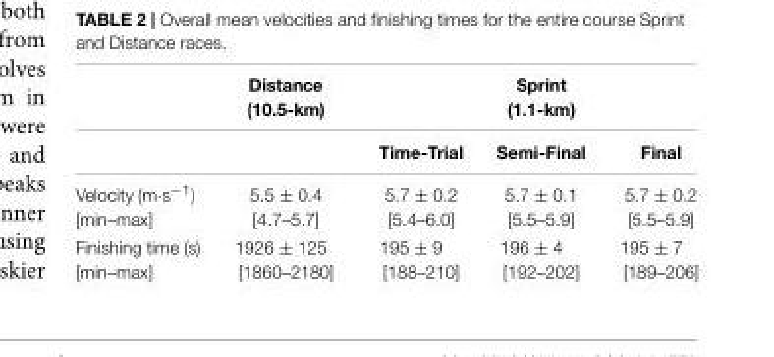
<table><thead><tr><td rowspan="2"></td><td rowspan="2">Distance (10.5-km)</td><td rowspan="2">Time-Trial</td><td rowspan="2">Sprint (1.1-km) Semi-Final</td><td rowspan="2">Final</td></tr><tr></tr></thead><tbody><tr><td>Velocity (m·s−1) [min–max]</td><td>5.5 ± 0.4 [4.7–5.7]</td><td>5.7 ± 0.2 [5.4–6.0]</td><td>5.7 ± 0.1 [5.5–5.9]</td><td>5.7 ± 0.2 [5.5–5.9]</td></tr><tr><td>Finishing time (s) [min–max]</td><td>1926 ± 125 [1860–2180]</td><td>195 ± 9 [188–210]</td><td>196 ± 4 [192–202]</td><td>195 ± 7 [189–206]</td></tr></tbody></table>